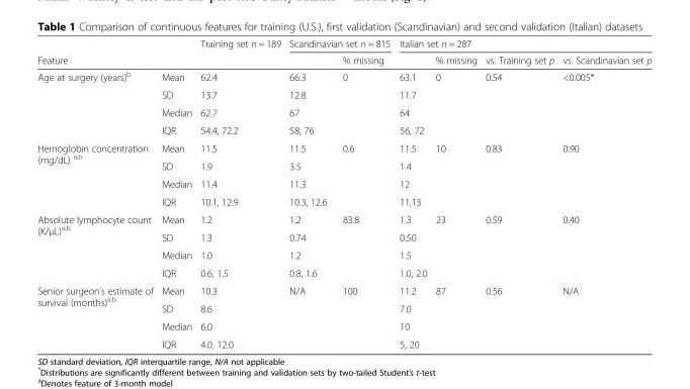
<table><thead><tr><td rowspan="2">Feature</td><td rowspan="2"></td><td rowspan="2">Training set n = 189</td><td colspan="2">Scandinavian set n = 815</td><td colspan="4">Italian set n = 287</td></tr><tr><td></td><td>% missing</td><td></td><td>% missing</td><td>vs. Training set p</td><td>vs. Scandinavian set p</td></tr></thead><tbody><tr><td rowspan="4">Age at surgery (years)<sup>b</sup></td><td>Mean</td><td>62.4</td><td>66.3</td><td>0</td><td>63.1</td><td>0</td><td>0.54</td><td>&lt;0.005*</td></tr><tr><td>SD</td><td>13.7</td><td>12.8</td><td></td><td>11.7</td><td></td><td></td><td></td></tr><tr><td>Median</td><td>62.7</td><td>67</td><td></td><td>64</td><td></td><td></td><td></td></tr><tr><td>IQR</td><td>54.4, 72.2</td><td>58, 76</td><td></td><td>56, 72</td><td></td><td></td><td></td></tr><tr><td rowspan="4">Hemoglobin concentration (mg/dL) <sup>a,b</sup></td><td>Mean</td><td>11.5</td><td>11.5</td><td>0.6</td><td>11.5</td><td>10</td><td>0.83</td><td>0.90</td></tr><tr><td>SD</td><td>1.9</td><td>3.5</td><td></td><td>1.4</td><td></td><td></td><td></td></tr><tr><td>Median</td><td>11.4</td><td>11.3</td><td></td><td>12</td><td></td><td></td><td></td></tr><tr><td>IQR</td><td>10.1, 12.9</td><td>10.3, 12.6</td><td></td><td>11,13</td><td></td><td></td><td></td></tr><tr><td rowspan="4">Absolute lymphocyte count (K/μL)<sup>a,b</sup></td><td>Mean</td><td>1.2</td><td>1.2</td><td>83.8</td><td>1.3</td><td>23</td><td>0.59</td><td>0.40</td></tr><tr><td>SD</td><td>1.3</td><td>0.74</td><td></td><td>0.50</td><td></td><td></td><td></td></tr><tr><td>Median</td><td>1.0</td><td>1.2</td><td></td><td>1.5</td><td></td><td></td><td></td></tr><tr><td>IQR</td><td>0.6, 1.5</td><td>0.8, 1.6</td><td></td><td>1.0, 2.0</td><td></td><td></td><td></td></tr><tr><td rowspan="4">Senior surgeon’s estimate of survival (months)<sup>a,b</sup></td><td>Mean</td><td>10.3</td><td>N/A</td><td>100</td><td>11.2</td><td>87</td><td>0.56</td><td>N/A</td></tr><tr><td>SD</td><td>8.6</td><td></td><td></td><td>7.0</td><td></td><td></td><td></td></tr><tr><td>Median</td><td>6.0</td><td></td><td></td><td>10</td><td></td><td></td><td></td></tr><tr><td>IQR</td><td>4.0, 12.0</td><td></td><td></td><td>5, 20</td><td></td><td></td><td></td></tr></tbody></table>